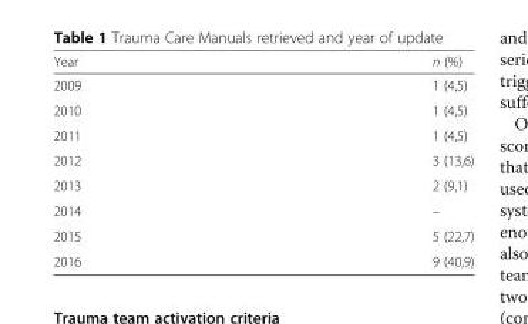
<table><thead><tr><td>Year</td><td>n (%)</td></tr></thead><tbody><tr><td>2009</td><td>1 (4,5)</td></tr><tr><td>2010</td><td>1 (4,5)</td></tr><tr><td>2011</td><td>1 (4,5)</td></tr><tr><td>2012</td><td>3 (13,6)</td></tr><tr><td>2013</td><td>2 (9,1)</td></tr><tr><td>2014</td><td>–</td></tr><tr><td>2015</td><td>5 (22,7)</td></tr><tr><td>2016</td><td>9 (40,9)</td></tr></tbody></table>